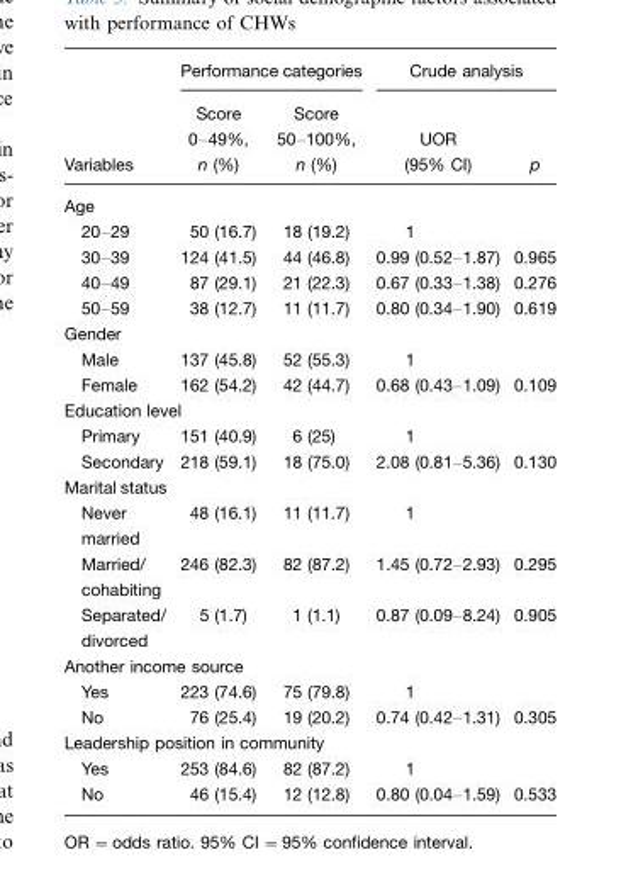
<table><thead><tr><td rowspan="2">Variables</td><td colspan="2">Performance categories</td><td colspan="2">Crude analysis</td></tr><tr><td>Score 0–49%, n (%)</td><td>Score 50–100%, n (%)</td><td>UOR (95% CI)</td><td>p</td></tr></thead><tbody><tr><td colspan="5">Age</td></tr><tr><td>20–29</td><td>50 (16.7)</td><td>18 (19.2)</td><td>1</td><td></td></tr><tr><td>30–39</td><td>124 (41.5)</td><td>44 (46.8)</td><td>0.99 (0.52–1.87)</td><td>0.965</td></tr><tr><td>40–49</td><td>87 (29.1)</td><td>21 (22.3)</td><td>0.67 (0.33–1.38)</td><td>0.276</td></tr><tr><td>50–59</td><td>38 (12.7)</td><td>11 (11.7)</td><td>0.80 (0.34–1.90)</td><td>0.619</td></tr><tr><td colspan="5">Gender</td></tr><tr><td>Male</td><td>137 (45.8)</td><td>52 (55.3)</td><td>1</td><td></td></tr><tr><td>Female</td><td>162 (54.2)</td><td>42 (44.7)</td><td>0.68 (0.43–1.09)</td><td>0.109</td></tr><tr><td colspan="5">Education level</td></tr><tr><td>Primary</td><td>151 (40.9)</td><td>6 (25)</td><td>1</td><td></td></tr><tr><td>Secondary</td><td>218 (59.1)</td><td>18 (75.0)</td><td>2.08 (0.81–5.36)</td><td>0.130</td></tr><tr><td colspan="5">Marital status</td></tr><tr><td>Never married</td><td>48 (16.1)</td><td>11 (11.7)</td><td>1</td><td></td></tr><tr><td>Married/ cohabiting</td><td>246 (82.3)</td><td>82 (87.2)</td><td>1.45 (0.72–2.93)</td><td>0.295</td></tr><tr><td>Separated/ divorced</td><td>5 (1.7)</td><td>1 (1.1)</td><td>0.87 (0.09–8.24)</td><td>0.905</td></tr><tr><td colspan="5">Another income source</td></tr><tr><td>Yes</td><td>223 (74.6)</td><td>75 (79.8)</td><td>1</td><td></td></tr><tr><td>No</td><td>76 (25.4)</td><td>19 (20.2)</td><td>0.74 (0.42–1.31)</td><td>0.305</td></tr><tr><td colspan="5">Leadership position in community</td></tr><tr><td>Yes</td><td>253 (84.6)</td><td>82 (87.2)</td><td>1</td><td></td></tr><tr><td>No</td><td>46 (15.4)</td><td>12 (12.8)</td><td>0.80 (0.04–1.59)</td><td>0.533</td></tr></tbody></table>